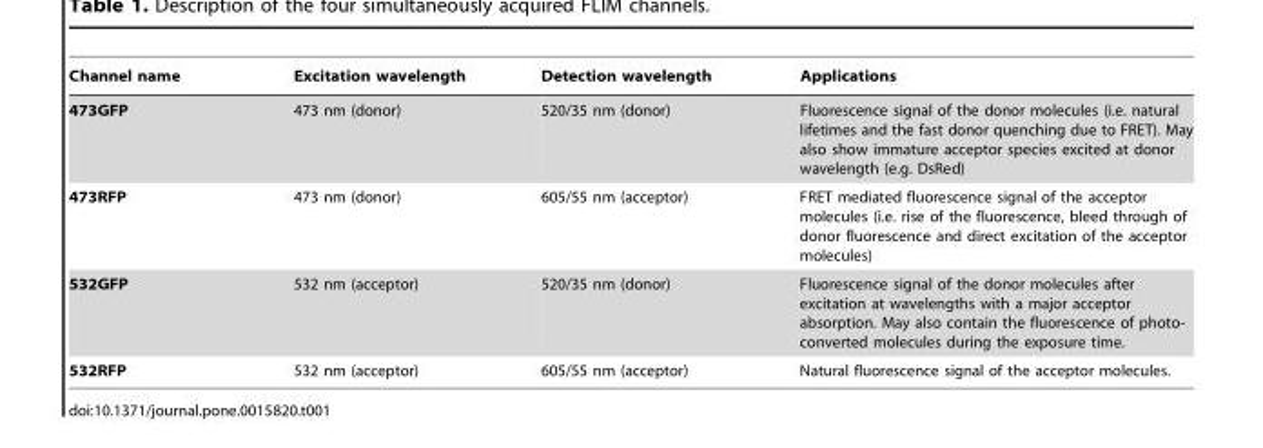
<table><thead><tr><td>Channel name</td><td>Excitation wavelength</td><td>Detection wavelength</td><td>Applications</td></tr></thead><tbody><tr><td>473GFP</td><td>473 nm (donor)</td><td>520/35 nm (donor)</td><td>Fluorescence signal of the donor molecules (i.e. natural lifetimes and the fast donor quenching due to FRET). May also show immature acceptor species excited at donor wavelength (e.g. DsRed)</td></tr><tr><td>473RFP</td><td>473 nm (donor)</td><td>605/55 nm (acceptor)</td><td>FRET mediated fluorescence signal of the acceptor molecules (i.e. rise of the fluorescence, bleed through of donor fluorescence and direct excitation of the acceptor molecules)</td></tr><tr><td>532GFP</td><td>532 nm (acceptor)</td><td>520/35 nm (donor)</td><td>Fluorescence signal of the donor molecules after excitation at wavelengths with a major acceptor absorption. May also contain the fluorescence of photo- converted molecules during the exposure time.</td></tr><tr><td>532RFP</td><td>532 nm (acceptor)</td><td>605/55 nm (acceptor)</td><td>Natural fluorescence signal of the acceptor molecules.</td></tr></tbody></table>